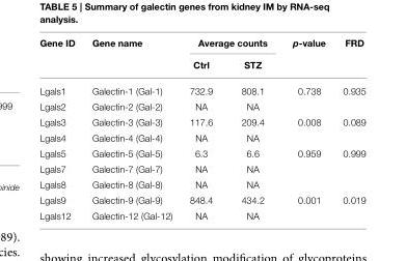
<table><thead><tr><td rowspan="2">Gene ID</td><td rowspan="2">Gene name</td><td colspan="2">Average counts</td><td rowspan="2">p-value</td><td rowspan="2">FRD</td></tr><tr><td>Ctrl</td><td>STZ</td></tr></thead><tbody><tr><td>Lgals1</td><td>Galectin-1 (Gal-1)</td><td>732.9</td><td>808.1</td><td>0.738</td><td>0.935</td></tr><tr><td>Lgals2</td><td>Galectin-2 (Gal-2)</td><td>NA</td><td>NA</td><td></td><td></td></tr><tr><td>Lgals3</td><td>Galectin-3 (Gal-3)</td><td>117.6</td><td>209.4</td><td>0.008</td><td>0.089</td></tr><tr><td>Lgals4</td><td>Galectin-4 (Gal-4)</td><td>NA</td><td>NA</td><td></td><td></td></tr><tr><td>Lgals5</td><td>Galectin-5 (Gal-5)</td><td>6.3</td><td>6.6</td><td>0.959</td><td>0.999</td></tr><tr><td>Lgals7</td><td>Galectin-7 (Gal-7)</td><td>NA</td><td>NA</td><td></td><td></td></tr><tr><td>Lgals8</td><td>Galectin-8 (Gal-8)</td><td>NA</td><td>NA</td><td></td><td></td></tr><tr><td>Lgals9</td><td>Galectin-9 (Gal-9)</td><td>848.4</td><td>434.2</td><td>0.001</td><td>0.019</td></tr><tr><td>Lgals12</td><td>Galectin-12 (Gal-12)</td><td>NA</td><td>NA</td><td></td><td></td></tr></tbody></table>